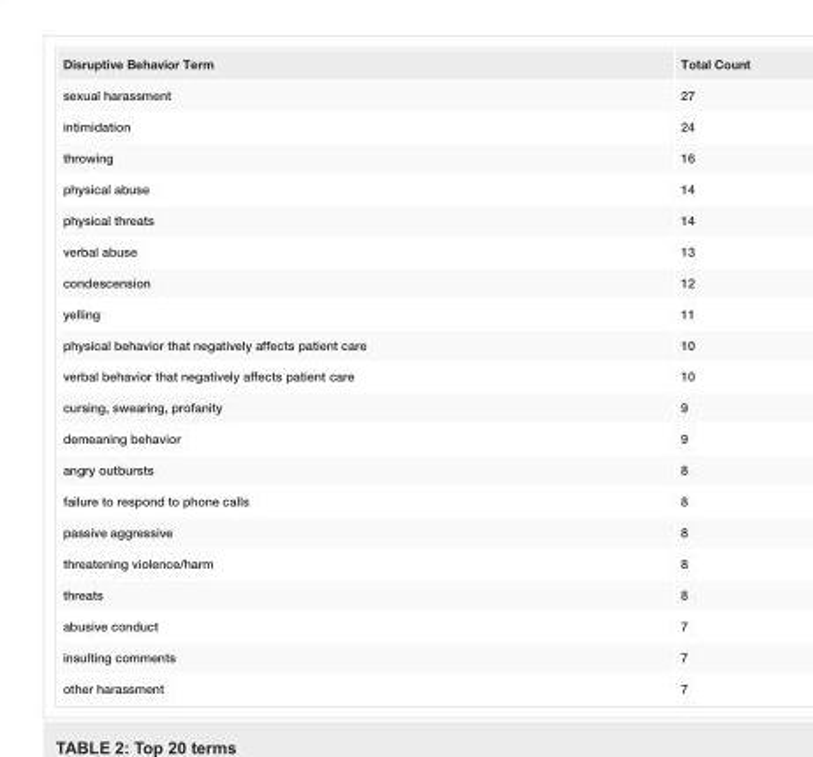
<table><tbody><tr><td>Disruptive Behavior Term</td><td>Total Count</td></tr><tr><td>sexual harassment</td><td>27</td></tr><tr><td>intimidation</td><td>24</td></tr><tr><td>throwing</td><td>16</td></tr><tr><td>physical abuse</td><td>14</td></tr><tr><td>physical threats</td><td>14</td></tr><tr><td>verbal abuse</td><td>13</td></tr><tr><td>condescension</td><td>12</td></tr><tr><td>yelling</td><td>11</td></tr><tr><td>physical behavior that negatively affects patient care</td><td>10</td></tr><tr><td>verbal behavior that negatively affects patient care</td><td>10</td></tr><tr><td>cursing, swearing, profanity</td><td>9</td></tr><tr><td>demeaning behavior</td><td>9</td></tr><tr><td>angry outbursts</td><td>8</td></tr><tr><td>failure to respond to phone calls</td><td>8</td></tr><tr><td>passive aggressive</td><td>8</td></tr><tr><td>threatening violence/harm</td><td>8</td></tr><tr><td>threats</td><td>8</td></tr><tr><td>abusive conduct</td><td>7</td></tr><tr><td>insulting comments</td><td>7</td></tr><tr><td>other harassment</td><td>7</td></tr></tbody></table>